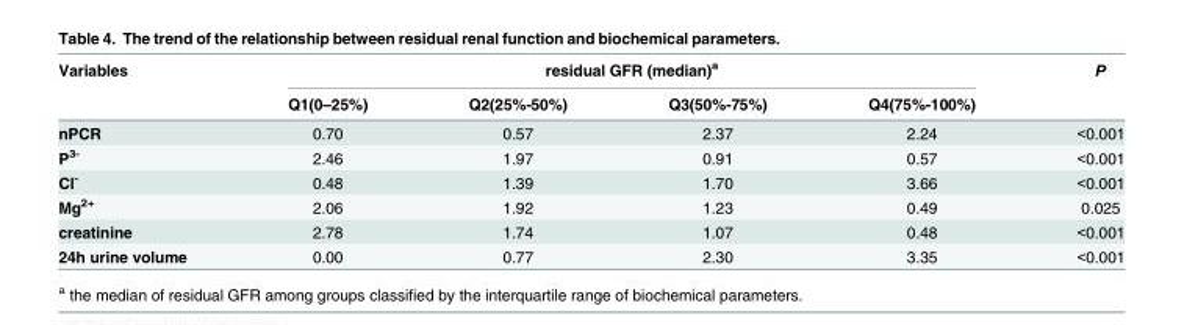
<table><thead><tr><td rowspan="2">Variables</td><td colspan="4">residual GFR (median)<sup>a</sup></td><td rowspan="2">P</td></tr><tr><td>Q1(0–25%)</td><td>Q2(25%-50%)</td><td>Q3(50%-75%)</td><td>Q4(75%-100%)</td></tr></thead><tbody><tr><td>nPCR</td><td>0.70</td><td>0.57</td><td>2.37</td><td>2.24</td><td>&lt;0.001</td></tr><tr><td>P<sup>3-</sup></td><td>2.46</td><td>1.97</td><td>0.91</td><td>0.57</td><td>&lt;0.001</td></tr><tr><td>Cl<sup>-</sup></td><td>0.48</td><td>1.39</td><td>1.70</td><td>3.66</td><td>&lt;0.001</td></tr><tr><td>Mg<sup>2+</sup></td><td>2.06</td><td>1.92</td><td>1.23</td><td>0.49</td><td>0.025</td></tr><tr><td>creatinine</td><td>2.78</td><td>1.74</td><td>1.07</td><td>0.48</td><td>&lt;0.001</td></tr><tr><td>24h urine volume</td><td>0.00</td><td>0.77</td><td>2.30</td><td>3.35</td><td>&lt;0.001</td></tr></tbody></table>